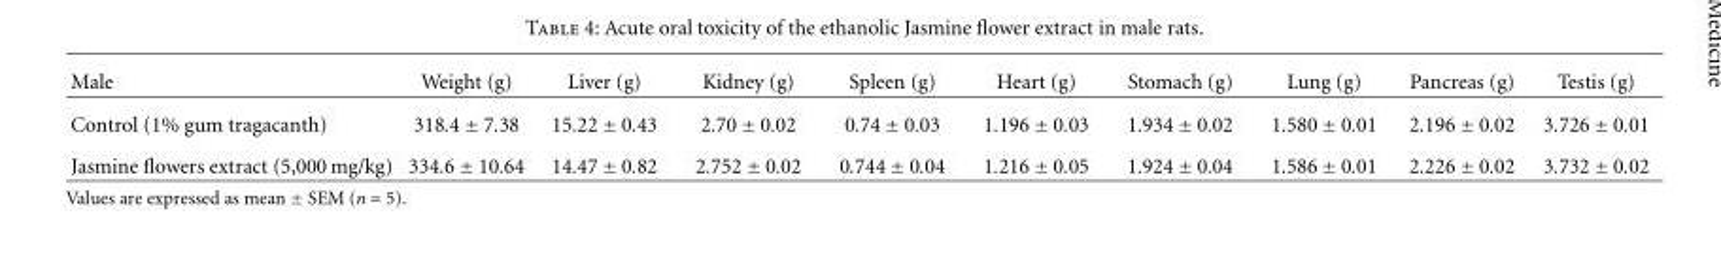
<table><thead><tr><td>Male</td><td>Weight (g)</td><td>Liver (g)</td><td>Kidney (g)</td><td>Spleen (g)</td><td>Heart (g)</td><td>Stomach (g)</td><td>Lung (g)</td><td>Pancreas (g)</td><td>Testis (g)</td></tr></thead><tbody><tr><td>Control (1% gum tragacanth)</td><td>318.4 ± 7.38</td><td>15.22 ± 0.43</td><td>2.70 ± 0.02</td><td>0.74 ± 0.03</td><td>1.196 ± 0.03</td><td>1.934 ± 0.02</td><td>1.580 ± 0.01</td><td>2.196 ± 0.02</td><td>3.726 ± 0.01</td></tr><tr><td>Jasmine flowers extract (5,000 mg/kg)</td><td>334.6 ± 10.64</td><td>14.47 ± 0.82</td><td>2.752 ± 0.02</td><td>0.744 ± 0.04</td><td>1.216 ± 0.05</td><td>1.924 ± 0.04</td><td>1.586 ± 0.01</td><td>2.226 ± 0.02</td><td>3.732 ± 0.02</td></tr></tbody></table>